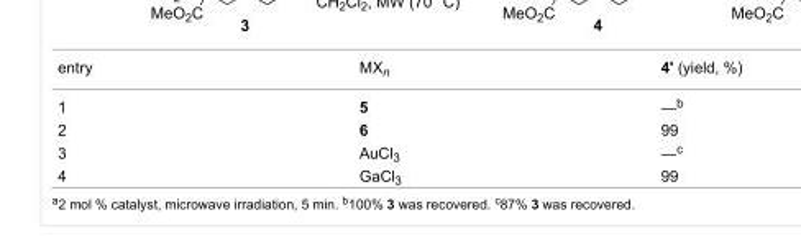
<table><tbody><tr><td>entry</td><td>MX<sub>n</sub></td><td>4&#x27; (yield, %)</td></tr><tr><td>1</td><td>5</td><td>—<sup>b</sup></td></tr><tr><td>2</td><td>6</td><td>99</td></tr><tr><td>3</td><td>AuCl<sub>3</sub></td><td>—<sup>c</sup></td></tr><tr><td>4</td><td>GaCl<sub>3</sub></td><td>99</td></tr></tbody></table>